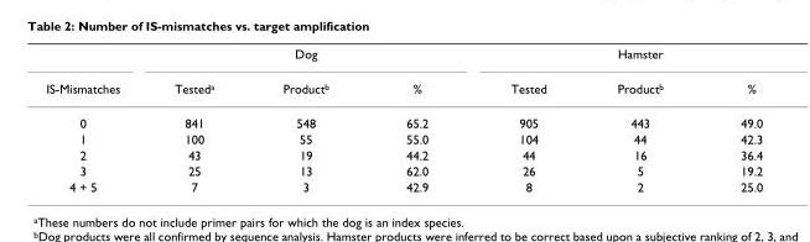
<table><thead><tr><td rowspan="2">IS-Mismatches</td><td colspan="3">Dog</td><td colspan="3">Hamster</td></tr><tr><td>Testeda</td><td>Productb</td><td>%</td><td>Tested</td><td>Productb</td><td>%</td></tr></thead><tbody><tr><td>0</td><td>841</td><td>548</td><td>65.2</td><td>905</td><td>443</td><td>49.0</td></tr><tr><td>1</td><td>100</td><td>55</td><td>55.0</td><td>104</td><td>44</td><td>42.3</td></tr><tr><td>2</td><td>43</td><td>19</td><td>44.2</td><td>44</td><td>16</td><td>36.4</td></tr><tr><td>3</td><td>25</td><td>13</td><td>62.0</td><td>26</td><td>5</td><td>19.2</td></tr><tr><td>4 + 5</td><td>7</td><td>3</td><td>42.9</td><td>8</td><td>2</td><td>25.0</td></tr></tbody></table>